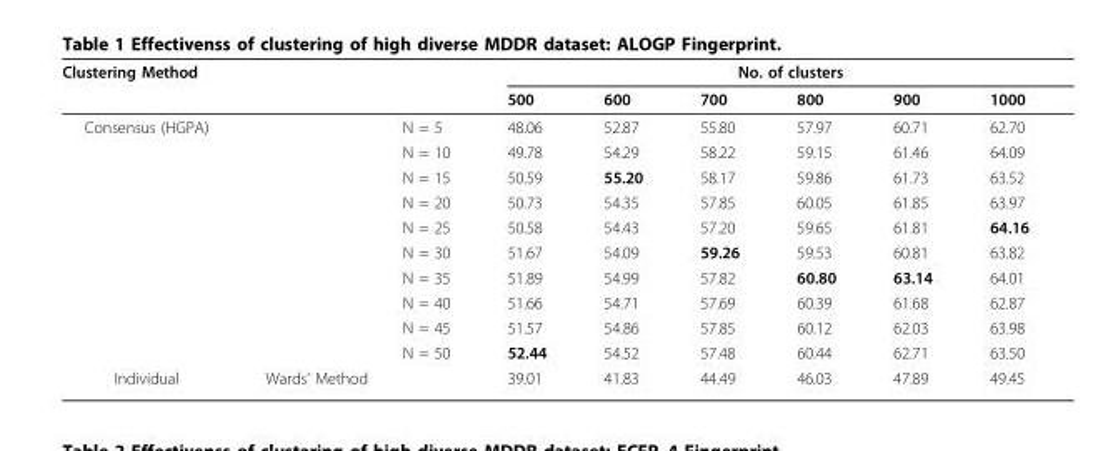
<table><thead><tr><td colspan="3">Clustering Method</td><td colspan="6">No. of clusters</td></tr><tr><td></td><td></td><td></td><td>500</td><td>600</td><td>700</td><td>800</td><td>900</td><td>1000</td></tr></thead><tbody><tr><td rowspan="10">Consensus (HGPA)</td><td></td><td>N = 5</td><td>48.06</td><td>52.87</td><td>55.80</td><td>57.97</td><td>60.71</td><td>62.70</td></tr><tr><td></td><td>N = 10</td><td>49.78</td><td>54.29</td><td>58.22</td><td>59.15</td><td>61.46</td><td>64.09</td></tr><tr><td></td><td>N = 15</td><td>50.59</td><td>55.20</td><td>58.17</td><td>59.86</td><td>61.73</td><td>63.52</td></tr><tr><td></td><td>N = 20</td><td>50.73</td><td>54.35</td><td>57.85</td><td>60.05</td><td>61.85</td><td>63.97</td></tr><tr><td></td><td>N = 25</td><td>50.58</td><td>54.43</td><td>57.20</td><td>59.65</td><td>61.81</td><td>64.16</td></tr><tr><td></td><td>N = 30</td><td>51.67</td><td>54.09</td><td>59.26</td><td>59.53</td><td>60.81</td><td>63.82</td></tr><tr><td></td><td>N = 35</td><td>51.89</td><td>54.99</td><td>57.82</td><td>60.80</td><td>63.14</td><td>64.01</td></tr><tr><td></td><td>N = 40</td><td>51.66</td><td>54.71</td><td>57.69</td><td>60.39</td><td>61.68</td><td>62.87</td></tr><tr><td></td><td>N = 45</td><td>51.57</td><td>54.86</td><td>57.85</td><td>60.12</td><td>62.03</td><td>63.98</td></tr><tr><td></td><td>N = 50</td><td>52.44</td><td>54.52</td><td>57.48</td><td>60.44</td><td>62.71</td><td>63.50</td></tr><tr><td>Individual</td><td>Wards’ Method</td><td></td><td>39.01</td><td>41.83</td><td>44.49</td><td>46.03</td><td>47.89</td><td>49.45</td></tr></tbody></table>